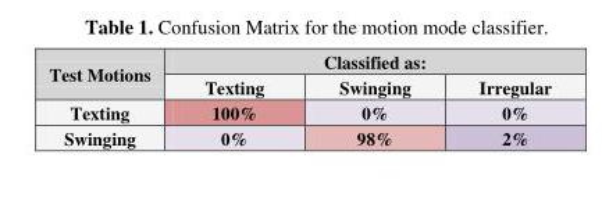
<table><thead><tr><td rowspan="2">Test Motions</td><td colspan="3">Classified as:</td></tr><tr><td>Texting</td><td>Swinging</td><td>Irregular</td></tr></thead><tbody><tr><td>Texting</td><td>100%</td><td>0%</td><td>0%</td></tr><tr><td>Swinging</td><td>0%</td><td>98%</td><td>2%</td></tr></tbody></table>